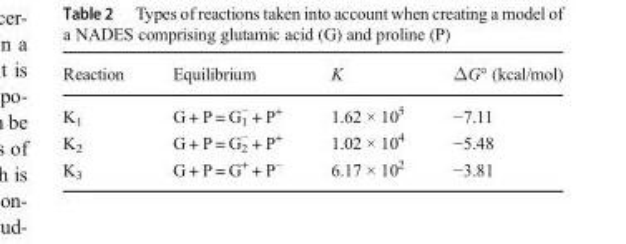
<table><thead><tr><td>Reaction</td><td>Equilibrium</td><td>K</td><td>ΔG° (kcal/mol)</td></tr></thead><tbody><tr><td>K<sub>1</sub></td><td>G + P = G<sub>1</sub> <sup>−</sup> + P<sup>+</sup></td><td>1.62 × 10<sup>5</sup></td><td>−7.11</td></tr><tr><td>K<sub>2</sub></td><td>G + P = G<sub>2</sub> <sup>−</sup> + P<sup>+</sup></td><td>1.02 × 10<sup>4</sup></td><td>−5.48</td></tr><tr><td>K<sub>3</sub></td><td>G + P = G<sup>+</sup> + P<sup>−</sup></td><td>6.17 × 10<sup>2</sup></td><td>−3.81</td></tr></tbody></table>